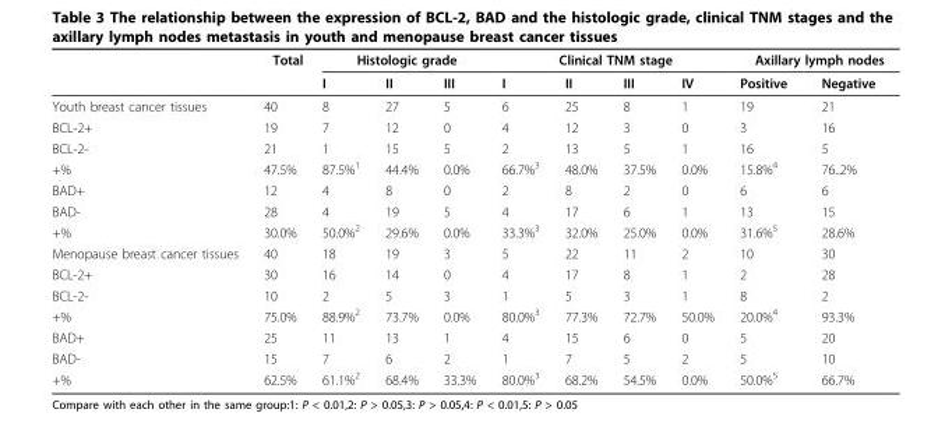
<table><thead><tr><td rowspan="2"></td><td rowspan="2">Total</td><td colspan="3">Histologic grade</td><td colspan="4">Clinical TNM stage</td><td colspan="2">Axillary lymph nodes</td></tr><tr><td>I</td><td>II</td><td>III</td><td>I</td><td>II</td><td>III</td><td>IV</td><td>Positive</td><td>Negative</td></tr></thead><tbody><tr><td>Youth breast cancer tissues</td><td>40</td><td>8</td><td>27</td><td>5</td><td>6</td><td>25</td><td>8</td><td>1</td><td>19</td><td>21</td></tr><tr><td>BCL-2+</td><td>19</td><td>7</td><td>12</td><td>0</td><td>4</td><td>12</td><td>3</td><td>0</td><td>3</td><td>16</td></tr><tr><td>BCL-2-</td><td>21</td><td>1</td><td>15</td><td>5</td><td>2</td><td>13</td><td>5</td><td>1</td><td>16</td><td>5</td></tr><tr><td>+%</td><td>47.5%</td><td>87.5%<sup>1</sup></td><td>44.4%</td><td>0.0%</td><td>66.7%<sup>3</sup></td><td>48.0%</td><td>37.5%</td><td>0.0%</td><td>15.8%<sup>4</sup></td><td>76..2%</td></tr><tr><td>BAD+</td><td>12</td><td>4</td><td>8</td><td>0</td><td>2</td><td>8</td><td>2</td><td>0</td><td>6</td><td>6</td></tr><tr><td>BAD-</td><td>28</td><td>4</td><td>19</td><td>5</td><td>4</td><td>17</td><td>6</td><td>1</td><td>13</td><td>15</td></tr><tr><td>+%</td><td>30.0%</td><td>50.0%<sup>2</sup></td><td>29.6%</td><td>0.0%</td><td>33.3%<sup>3</sup></td><td>32.0%</td><td>25.0%</td><td>0.0%</td><td>31.6%<sup>5</sup></td><td>28.6%</td></tr><tr><td>Menopause breast cancer tissues</td><td>40</td><td>18</td><td>19</td><td>3</td><td>5</td><td>22</td><td>11</td><td>2</td><td>10</td><td>30</td></tr><tr><td>BCL-2+</td><td>30</td><td>16</td><td>14</td><td>0</td><td>4</td><td>17</td><td>8</td><td>1</td><td>2</td><td>28</td></tr><tr><td>BCL-2-</td><td>10</td><td>2</td><td>5</td><td>3</td><td>1</td><td>5</td><td>3</td><td>1</td><td>8</td><td>2</td></tr><tr><td>+%</td><td>75.0%</td><td>88.9%<sup>2</sup></td><td>73.7%</td><td>0.0%</td><td>80.0%<sup>3</sup></td><td>77.3%</td><td>72.7%</td><td>50.0%</td><td>20.0%<sup>4</sup></td><td>93.3%</td></tr><tr><td>BAD+</td><td>25</td><td>11</td><td>13</td><td>1</td><td>4</td><td>15</td><td>6</td><td>0</td><td>5</td><td>20</td></tr><tr><td>BAD-</td><td>15</td><td>7</td><td>6</td><td>2</td><td>1</td><td>7</td><td>5</td><td>2</td><td>5</td><td>10</td></tr><tr><td>+%</td><td>62.5%</td><td>61.1%<sup>2</sup></td><td>68.4%</td><td>33.3%</td><td>80.0%<sup>3</sup></td><td>68.2%</td><td>54.5%</td><td>0.0%</td><td>50.0%<sup>5</sup></td><td>66.7%</td></tr></tbody></table>